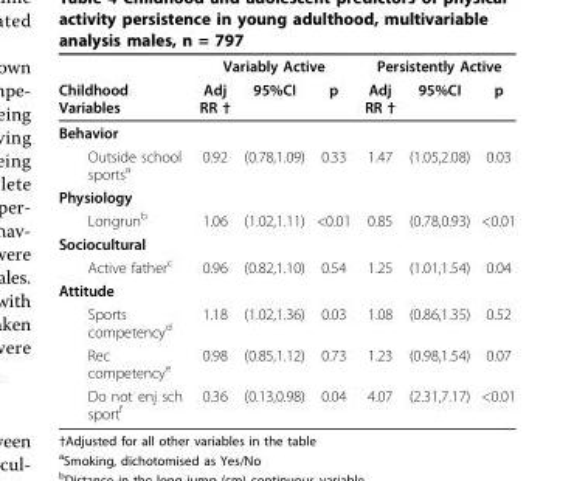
<table><thead><tr><td rowspan="2">Childhood Variables</td><td colspan="3">Variably Active</td><td colspan="3">Persistently Active</td></tr><tr><td>Adj RR †</td><td>95%CI</td><td>p</td><td>Adj RR †</td><td>95%CI</td><td>p</td></tr></thead><tbody><tr><td colspan="7">Behavior</td></tr><tr><td>Outside school sports<sup>a</sup></td><td>0.92</td><td>(0.78,1.09)</td><td>0.33</td><td>1.47</td><td>(1.05,2.08)</td><td>0.03</td></tr><tr><td colspan="7">Physiology</td></tr><tr><td>Longrun<sup>b</sup></td><td>1.06</td><td>(1.02,1.11)</td><td>&lt;0.01</td><td>0.85</td><td>(0.78,0.93)</td><td>&lt;0.01</td></tr><tr><td colspan="7">Sociocultural</td></tr><tr><td>Active father<sup>c</sup></td><td>0.96</td><td>(0.82,1.10)</td><td>0.54</td><td>1.25</td><td>(1.01,1.54)</td><td>0.04</td></tr><tr><td colspan="7">Attitude</td></tr><tr><td>Sports competency<sup>d</sup></td><td>1.18</td><td>(1.02,1.36)</td><td>0.03</td><td>1.08</td><td>(0.86,1.35)</td><td>0.52</td></tr><tr><td>Rec competency<sup>e</sup></td><td>0.98</td><td>(0.85,1.12)</td><td>0.73</td><td>1.23</td><td>(0.98,1.54)</td><td>0.07</td></tr><tr><td>Do not enj sch sport<sup>f</sup></td><td>0.36</td><td>(0.13,0.98)</td><td>0.04</td><td>4.07</td><td>(2.31,7.17)</td><td>&lt;0.01</td></tr></tbody></table>